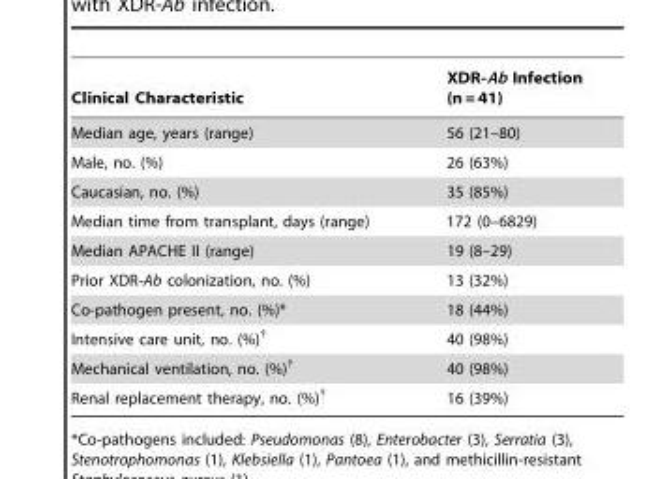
<table><thead><tr><td>Clinical Characteristic</td><td>XDR-Ab Infection (n = 41)</td></tr></thead><tbody><tr><td>Median age, years (range)</td><td>56 (21–80)</td></tr><tr><td>Male, no. (%)</td><td>26 (63%)</td></tr><tr><td>Caucasian, no. (%)</td><td>35 (85%)</td></tr><tr><td>Median time from transplant, days (range)</td><td>172 (0–6829)</td></tr><tr><td>Median APACHE II (range)</td><td>19 (8–29)</td></tr><tr><td>Prior XDR-Ab colonization, no. (%)</td><td>13 (32%)</td></tr><tr><td>Co-pathogen present, no. (%)*</td><td>18 (44%)</td></tr><tr><td>Intensive care unit, no. (%)†</td><td>40 (98%)</td></tr><tr><td>Mechanical ventilation, no. (%)†</td><td>40 (98%)</td></tr><tr><td>Renal replacement therapy, no. (%)†</td><td>16 (39%)</td></tr></tbody></table>